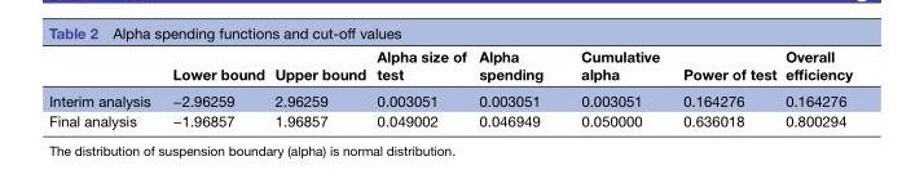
<table><thead><tr><td></td><td>Lower bound</td><td>Upper bound</td><td>Alpha size of test</td><td>Alpha spending</td><td>Cumulative alpha</td><td>Power of test</td><td>Overall efficiency</td></tr></thead><tbody><tr><td>Interim analysis</td><td>−2.96259</td><td>2.96259</td><td>0.003051</td><td>0.003051</td><td>0.003051</td><td>0.164276</td><td>0.164276</td></tr><tr><td>Final analysis</td><td>−1.96857</td><td>1.96857</td><td>0.049002</td><td>0.046949</td><td>0.050000</td><td>0.636018</td><td>0.800294</td></tr></tbody></table>